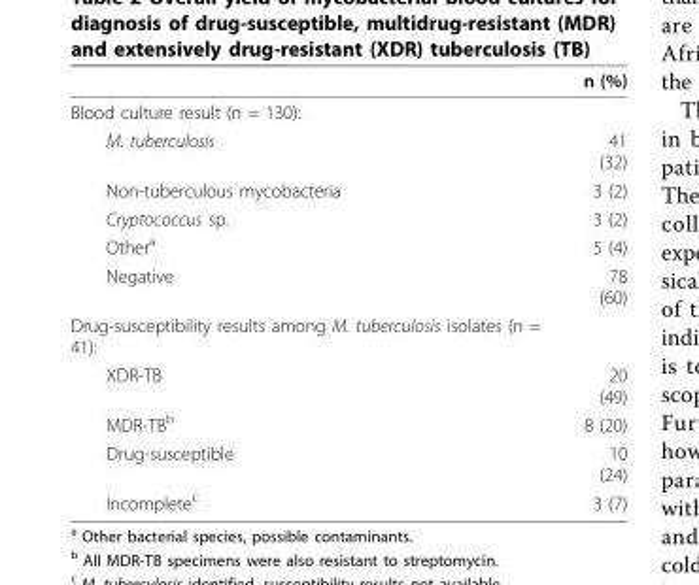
<table><thead><tr><td></td><td>n (%)</td></tr></thead><tbody><tr><td colspan="2">Blood culture result (n = 130):</td></tr><tr><td>M. tuberculosis</td><td>41 (32)</td></tr><tr><td>Non-tuberculous mycobacteria</td><td>3 (2)</td></tr><tr><td>Cryptococcus sp.</td><td>3 (2)</td></tr><tr><td>Other<sup>a</sup></td><td>5 (4)</td></tr><tr><td>Negative</td><td>78 (60)</td></tr><tr><td colspan="2">Drug-susceptibility results among M. tuberculosis isolates (n = 41):</td></tr><tr><td>XDR-TB</td><td>20 (49)</td></tr><tr><td>MDR-TB<sup>b</sup></td><td>8 (20)</td></tr><tr><td>Drug-susceptible</td><td>10 (24)</td></tr><tr><td>Incomplete<sup>c</sup></td><td>3 (7)</td></tr></tbody></table>